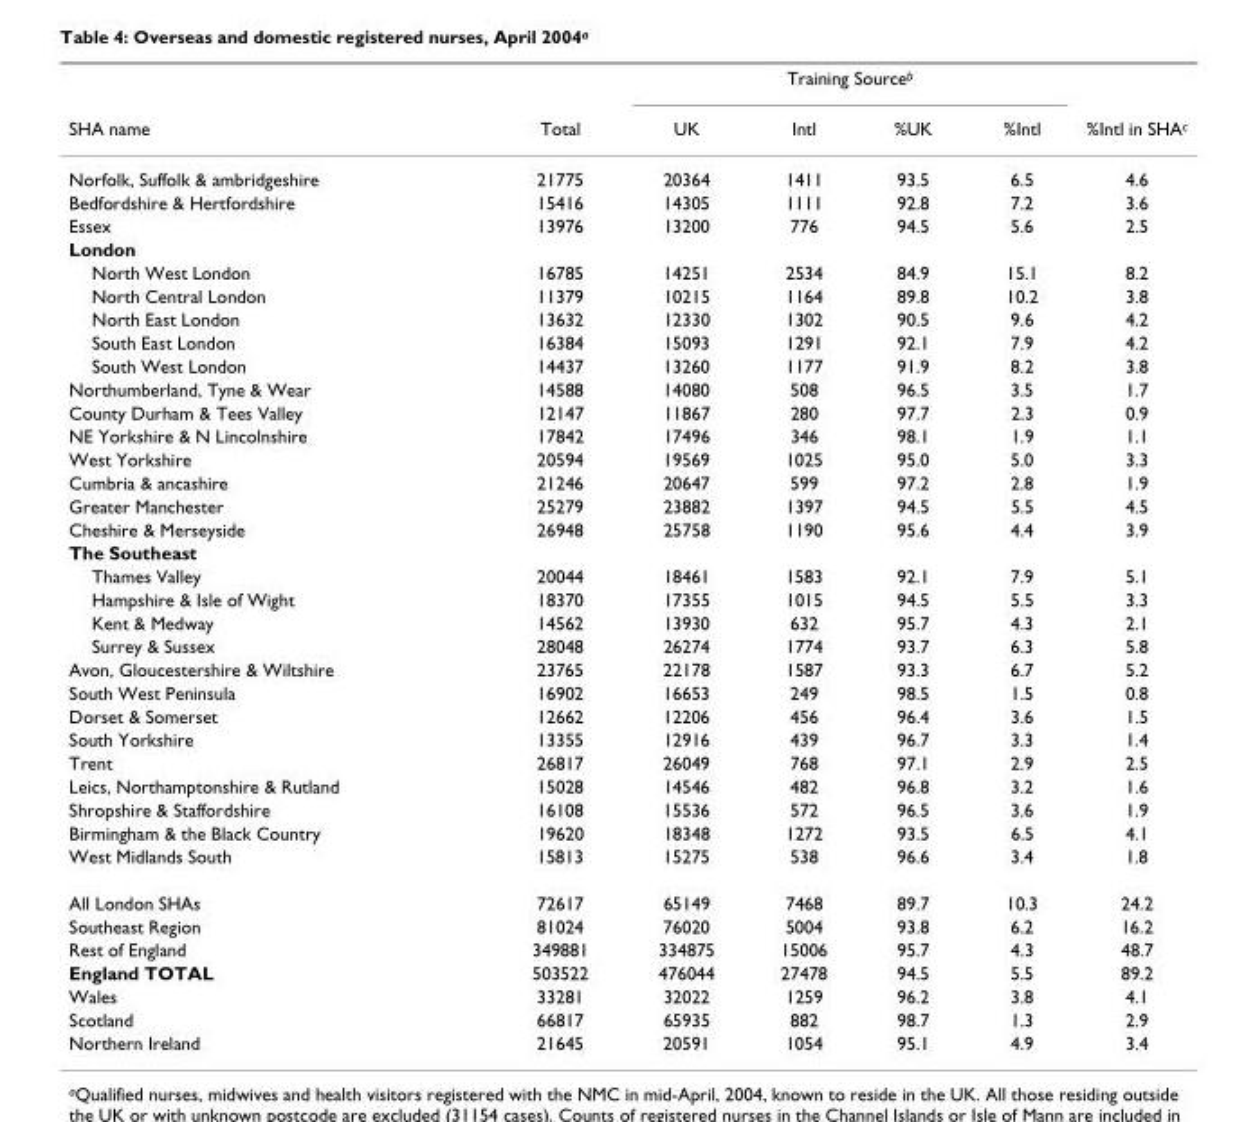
<table><thead><tr><td rowspan="2">SHA name</td><td rowspan="2">Total</td><td colspan="4">Training Source<sup>b</sup></td><td rowspan="2">%Intl in SHA<sup>c</sup></td></tr><tr><td>UK</td><td>Intl</td><td>%UK</td><td>%Intl</td></tr></thead><tbody><tr><td>Norfolk, Suffolk &amp; ambridgeshire</td><td>21775</td><td>20364</td><td>1411</td><td>93.5</td><td>6.5</td><td>4.6</td></tr><tr><td>Bedfordshire &amp; Hertfordshire</td><td>15416</td><td>14305</td><td>1111</td><td>92.8</td><td>7.2</td><td>3.6</td></tr><tr><td>Essex</td><td>13976</td><td>13200</td><td>776</td><td>94.5</td><td>5.6</td><td>2.5</td></tr><tr><td colspan="7">London</td></tr><tr><td>North West London</td><td>16785</td><td>14251</td><td>2534</td><td>84.9</td><td>15.1</td><td>8.2</td></tr><tr><td>North Central London</td><td>11379</td><td>10215</td><td>1164</td><td>89.8</td><td>10.2</td><td>3.8</td></tr><tr><td>North East London</td><td>13632</td><td>12330</td><td>1302</td><td>90.5</td><td>9.6</td><td>4.2</td></tr><tr><td>South East London</td><td>16384</td><td>15093</td><td>1291</td><td>92.1</td><td>7.9</td><td>4.2</td></tr><tr><td>South West London</td><td>14437</td><td>13260</td><td>1177</td><td>91.9</td><td>8.2</td><td>3.8</td></tr><tr><td>Northumberland, Tyne &amp; Wear</td><td>14588</td><td>14080</td><td>508</td><td>96.5</td><td>3.5</td><td>1.7</td></tr><tr><td>County Durham &amp; Tees Valley</td><td>12147</td><td>11867</td><td>280</td><td>97.7</td><td>2.3</td><td>0.9</td></tr><tr><td>NE Yorkshire &amp; N Lincolnshire</td><td>17842</td><td>17496</td><td>346</td><td>98.1</td><td>1.9</td><td>1.1</td></tr><tr><td>West Yorkshire</td><td>20594</td><td>19569</td><td>1025</td><td>95.0</td><td>5.0</td><td>3.3</td></tr><tr><td>Cumbria &amp; ancashire</td><td>21246</td><td>20647</td><td>599</td><td>97.2</td><td>2.8</td><td>1.9</td></tr><tr><td>Greater Manchester</td><td>25279</td><td>23882</td><td>1397</td><td>94.5</td><td>5.5</td><td>4.5</td></tr><tr><td>Cheshire &amp; Merseyside</td><td>26948</td><td>25758</td><td>1190</td><td>95.6</td><td>4.4</td><td>3.9</td></tr><tr><td colspan="7">The Southeast</td></tr><tr><td>Thames Valley</td><td>20044</td><td>18461</td><td>1583</td><td>92.1</td><td>7.9</td><td>5.1</td></tr><tr><td>Hampshire &amp; Isle of Wight</td><td>18370</td><td>17355</td><td>1015</td><td>94.5</td><td>5.5</td><td>3.3</td></tr><tr><td>Kent &amp; Medway</td><td>14562</td><td>13930</td><td>632</td><td>95.7</td><td>4.3</td><td>2.1</td></tr><tr><td>Surrey &amp; Sussex</td><td>28048</td><td>26274</td><td>1774</td><td>93.7</td><td>6.3</td><td>5.8</td></tr><tr><td>Avon, Gloucestershire &amp; Wiltshire</td><td>23765</td><td>22178</td><td>1587</td><td>93.3</td><td>6.7</td><td>5.2</td></tr><tr><td>South West Peninsula</td><td>16902</td><td>16653</td><td>249</td><td>98.5</td><td>1.5</td><td>0.8</td></tr><tr><td>Dorset &amp; Somerset</td><td>12662</td><td>12206</td><td>456</td><td>96.4</td><td>3.6</td><td>1.5</td></tr><tr><td>South Yorkshire</td><td>13355</td><td>12916</td><td>439</td><td>96.7</td><td>3.3</td><td>1.4</td></tr><tr><td>Trent</td><td>26817</td><td>26049</td><td>768</td><td>97.1</td><td>2.9</td><td>2.5</td></tr><tr><td>Leics, Northamptonshire &amp; Rutland</td><td>15028</td><td>14546</td><td>482</td><td>96.8</td><td>3.2</td><td>1.6</td></tr><tr><td>Shropshire &amp; Staffordshire</td><td>16108</td><td>15536</td><td>572</td><td>96.5</td><td>3.6</td><td>1.9</td></tr><tr><td>Birmingham &amp; the Black Country</td><td>19620</td><td>18348</td><td>1272</td><td>93.5</td><td>6.5</td><td>4.1</td></tr><tr><td>West Midlands South</td><td>15813</td><td>15275</td><td>538</td><td>96.6</td><td>3.4</td><td>1.8</td></tr><tr><td>All London SHAs</td><td>72617</td><td>65149</td><td>7468</td><td>89.7</td><td>10.3</td><td>24.2</td></tr><tr><td>Southeast Region</td><td>81024</td><td>76020</td><td>5004</td><td>93.8</td><td>6.2</td><td>16.2</td></tr><tr><td>Rest of England</td><td>349881</td><td>334875</td><td>15006</td><td>95.7</td><td>4.3</td><td>48.7</td></tr><tr><td>England TOTAL</td><td>503522</td><td>476044</td><td>27478</td><td>94.5</td><td>5.5</td><td>89.2</td></tr><tr><td>Wales</td><td>33281</td><td>32022</td><td>1259</td><td>96.2</td><td>3.8</td><td>4.1</td></tr><tr><td>Scotland</td><td>66817</td><td>65935</td><td>882</td><td>98.7</td><td>1.3</td><td>2.9</td></tr><tr><td>Northern Ireland</td><td>21645</td><td>20591</td><td>1054</td><td>95.1</td><td>4.9</td><td>3.4</td></tr></tbody></table>